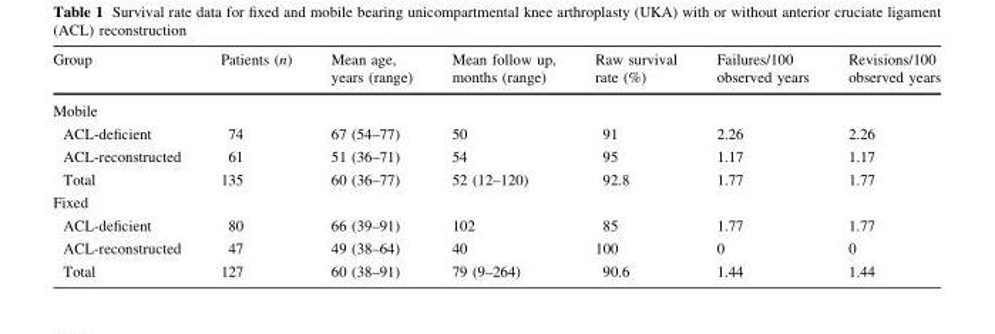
<table><thead><tr><td>Group</td><td>Patients (n)</td><td>Mean age, years (range)</td><td>Mean follow up, months (range)</td><td>Raw survival rate (%)</td><td>Failures/100 observed years</td><td>Revisions/100 observed years</td></tr></thead><tbody><tr><td colspan="7">Mobile</td></tr><tr><td>ACL-deficient</td><td>74</td><td>67 (54–77)</td><td>50</td><td>91</td><td>2.26</td><td>2.26</td></tr><tr><td>ACL-reconstructed</td><td>61</td><td>51 (36–71)</td><td>54</td><td>95</td><td>1.17</td><td>1.17</td></tr><tr><td>Total</td><td>135</td><td>60 (36–77)</td><td>52 (12–120)</td><td>92.8</td><td>1.77</td><td>1.77</td></tr><tr><td colspan="7">Fixed</td></tr><tr><td>ACL-deficient</td><td>80</td><td>66 (39–91)</td><td>102</td><td>85</td><td>1.77</td><td>1.77</td></tr><tr><td>ACL-reconstructed</td><td>47</td><td>49 (38–64)</td><td>40</td><td>100</td><td>0</td><td>0</td></tr><tr><td>Total</td><td>127</td><td>60 (38–91)</td><td>79 (9–264)</td><td>90.6</td><td>1.44</td><td>1.44</td></tr></tbody></table>